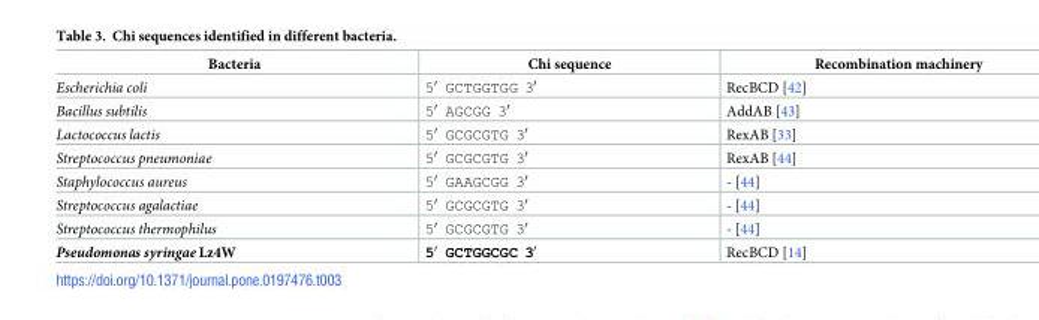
<table><thead><tr><td>Bacteria</td><td>Chi sequence</td><td>Recombination machinery</td></tr></thead><tbody><tr><td>Escherichia coli</td><td>5′ GCTGGTGG 3′</td><td>RecBCD [42]</td></tr><tr><td>Bacillus subtilis</td><td>5′ AGCGG 3′</td><td>AddAB [43]</td></tr><tr><td>Lactococcus lactis</td><td>5′ GCGCGTG 3′</td><td>RexAB [33]</td></tr><tr><td>Streptococcus pneumoniae</td><td>5′ GCGCGTG 3′</td><td>RexAB [44]</td></tr><tr><td>Staphylococcus aureus</td><td>5′ GAAGCGG 3′</td><td>- [44]</td></tr><tr><td>Streptococcus agalactiae</td><td>5′ GCGCGTG 3′</td><td>- [44]</td></tr><tr><td>Streptococcus thermophilus</td><td>5′ GCGCGTG 3′</td><td>- [44]</td></tr><tr><td>Pseudomonas syringae Lz4W</td><td>5′ GCTGGCGC 3′</td><td>RecBCD [14]</td></tr></tbody></table>